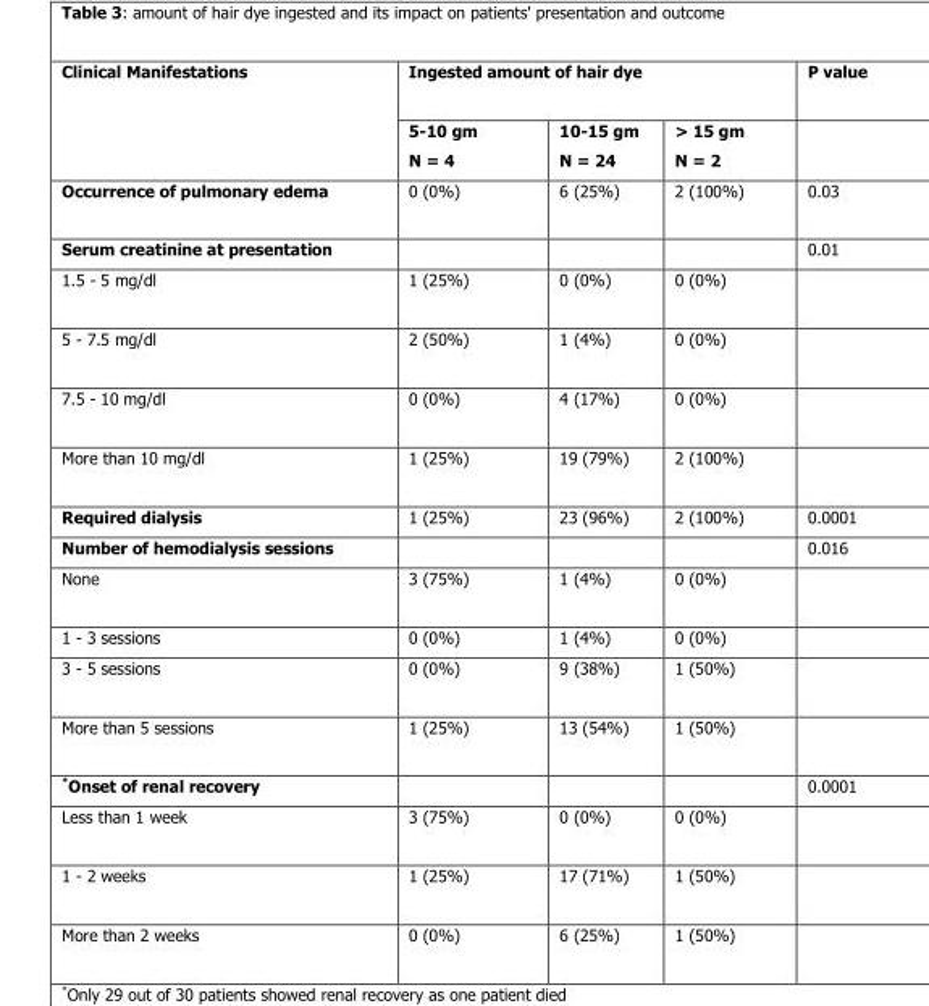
<table><thead><tr><td rowspan="2">Clinical Manifestations</td><td colspan="3">Ingested amount of hair dye</td><td rowspan="2">P value</td></tr><tr><td>5-10 gm N = 4</td><td>10-15 gm N = 24</td><td>&gt; 15 gm N = 2</td></tr></thead><tbody><tr><td>Occurrence of pulmonary edema</td><td>0 (0%)</td><td>6 (25%)</td><td>2 (100%)</td><td>0.03</td></tr><tr><td>Serum creatinine at presentation</td><td></td><td></td><td></td><td>0.01</td></tr><tr><td>1.5 - 5 mg/dl</td><td>1 (25%)</td><td>0 (0%)</td><td>0 (0%)</td><td></td></tr><tr><td>5 - 7.5 mg/dl</td><td>2 (50%)</td><td>1 (4%)</td><td>0 (0%)</td><td></td></tr><tr><td>7.5 - 10 mg/dl</td><td>0 (0%)</td><td>4 (17%)</td><td>0 (0%)</td><td></td></tr><tr><td>More than 10 mg/dl</td><td>1 (25%)</td><td>19 (79%)</td><td>2 (100%)</td><td></td></tr><tr><td>Required dialysis</td><td>1 (25%)</td><td>23 (96%)</td><td>2 (100%)</td><td>0.0001</td></tr><tr><td>Number of hemodialysis sessions</td><td></td><td></td><td></td><td>0.016</td></tr><tr><td>None</td><td>3 (75%)</td><td>1 (4%)</td><td>0 (0%)</td><td></td></tr><tr><td>1 - 3 sessions</td><td>0 (0%)</td><td>1 (4%)</td><td>0 (0%)</td><td></td></tr><tr><td>3 - 5 sessions</td><td>0 (0%)</td><td>9 (38%)</td><td>1 (50%)</td><td></td></tr><tr><td>More than 5 sessions</td><td>1 (25%)</td><td>13 (54%)</td><td>1 (50%)</td><td></td></tr><tr><td>*Onset of renal recovery</td><td></td><td></td><td></td><td>0.0001</td></tr><tr><td>Less than 1 week</td><td>3 (75%)</td><td>0 (0%)</td><td>0 (0%)</td><td></td></tr><tr><td>1 - 2 weeks</td><td>1 (25%)</td><td>17 (71%)</td><td>1 (50%)</td><td></td></tr><tr><td>More than 2 weeks</td><td>0 (0%)</td><td>6 (25%)</td><td>1 (50%)</td><td></td></tr></tbody></table>